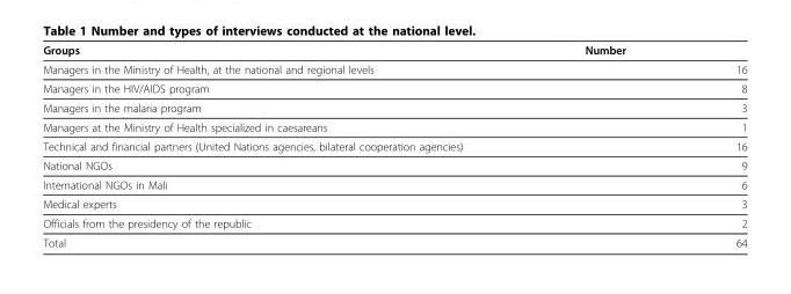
<table><thead><tr><td>Groups</td><td>Number</td></tr></thead><tbody><tr><td>Managers in the Ministry of Health, at the national and regional levels</td><td>16</td></tr><tr><td>Managers in the HIV/AIDS program</td><td>8</td></tr><tr><td>Managers in the malaria program</td><td>3</td></tr><tr><td>Managers at the Ministry of Health specialized in caesareans</td><td>1</td></tr><tr><td>Technical and financial partners (United Nations agencies, bilateral cooperation agencies)</td><td>16</td></tr><tr><td>National NGOs</td><td>9</td></tr><tr><td>International NGOs in Mali</td><td>6</td></tr><tr><td>Medical experts</td><td>3</td></tr><tr><td>Officials from the presidency of the republic</td><td>2</td></tr><tr><td>Total</td><td>64</td></tr></tbody></table>